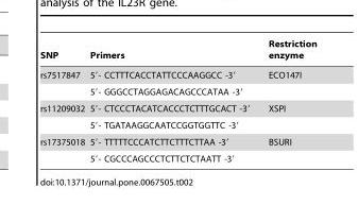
<table><thead><tr><td>SNP</td><td>Primers</td><td>Restriction enzyme</td></tr></thead><tbody><tr><td rowspan="2">rs7517847</td><td>5′- CCTTTCACCTATTCCCAAGGCC -3′</td><td>ECO147I</td></tr><tr><td>5′- GGGCCTAGGAGACAGCCCATAA -3′</td><td></td></tr><tr><td rowspan="2">rs11209032</td><td>5′- CTCCCTACATCACCCTCTTTGCACT -3′</td><td>XSPI</td></tr><tr><td>5′- TGATAAGGCAATCCGGTGGTTC -3′</td><td></td></tr><tr><td rowspan="2">rs17375018</td><td>5′- TTTTTCCCATCTTCTTTCTTAA -3′</td><td>BSURI</td></tr><tr><td>5′- CGCCCAGCCCTCTTCTCTAATT -3′</td><td></td></tr></tbody></table>